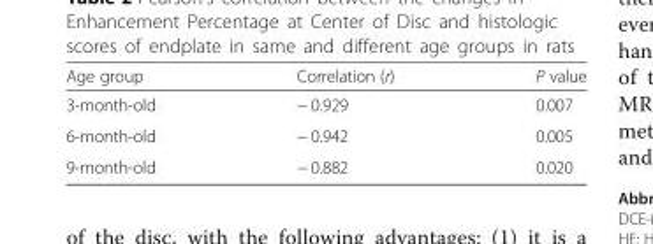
<table><thead><tr><td>Age group</td><td>Correlation (r)</td><td>P value</td></tr></thead><tbody><tr><td>3-month-old</td><td>− 0.929</td><td>0.007</td></tr><tr><td>6-month-old</td><td>− 0.942</td><td>0.005</td></tr><tr><td>9-month-old</td><td>− 0.882</td><td>0.020</td></tr></tbody></table>